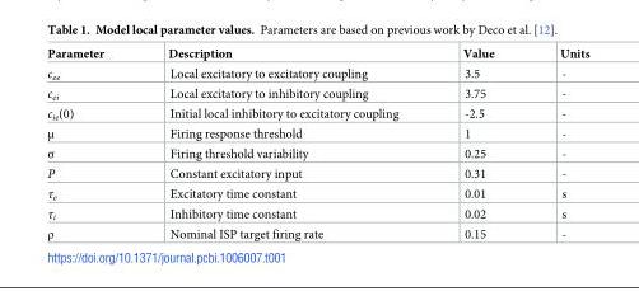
<table><thead><tr><td>Parameter</td><td>Description</td><td>Value</td><td>Units</td></tr></thead><tbody><tr><td>c<sub>ee</sub></td><td>Local excitatory to excitatory coupling</td><td>3.5</td><td>-</td></tr><tr><td>c<sub>ei</sub></td><td>Local excitatory to inhibitory coupling</td><td>3.75</td><td>-</td></tr><tr><td>c<sub>ie</sub>(0)</td><td>Initial local inhibitory to excitatory coupling</td><td>-2.5</td><td>-</td></tr><tr><td>μ</td><td>Firing response threshold</td><td>1</td><td>-</td></tr><tr><td>σ</td><td>Firing threshold variability</td><td>0.25</td><td>-</td></tr><tr><td>P</td><td>Constant excitatory input</td><td>0.31</td><td>-</td></tr><tr><td>τ<sub>e</sub></td><td>Excitatory time constant</td><td>0.01</td><td>s</td></tr><tr><td>τ<sub>i</sub></td><td>Inhibitory time constant</td><td>0.02</td><td>s</td></tr><tr><td>ρ</td><td>Nominal ISP target firing rate</td><td>0.15</td><td>-</td></tr></tbody></table>